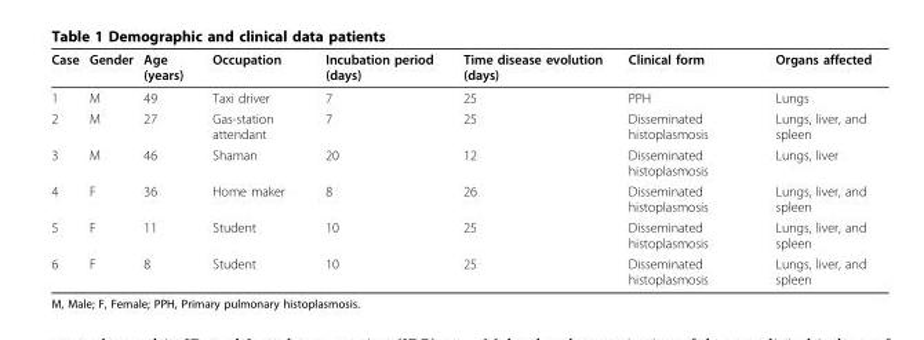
<table><thead><tr><td>Case</td><td>Gender</td><td>Age (years)</td><td>Occupation</td><td>Incubation period (days)</td><td>Time disease evolution (days)</td><td>Clinical form</td><td>Organs affected</td></tr></thead><tbody><tr><td>1</td><td>M</td><td>49</td><td>Taxi driver</td><td>7</td><td>25</td><td>PPH</td><td>Lungs</td></tr><tr><td>2</td><td>M</td><td>27</td><td>Gas-station attendant</td><td>7</td><td>25</td><td>Disseminated histoplasmosis</td><td>Lungs, liver, and spleen</td></tr><tr><td>3</td><td>M</td><td>46</td><td>Shaman</td><td>20</td><td>12</td><td>Disseminated histoplasmosis</td><td>Lungs, liver</td></tr><tr><td>4</td><td>F</td><td>36</td><td>Home maker</td><td>8</td><td>26</td><td>Disseminated histoplasmosis</td><td>Lungs, liver, and spleen</td></tr><tr><td>5</td><td>F</td><td>11</td><td>Student</td><td>10</td><td>25</td><td>Disseminated histoplasmosis</td><td>Lungs, liver, and spleen</td></tr><tr><td>6</td><td>F</td><td>8</td><td>Student</td><td>10</td><td>25</td><td>Disseminated histoplasmosis</td><td>Lungs, liver, and spleen</td></tr></tbody></table>